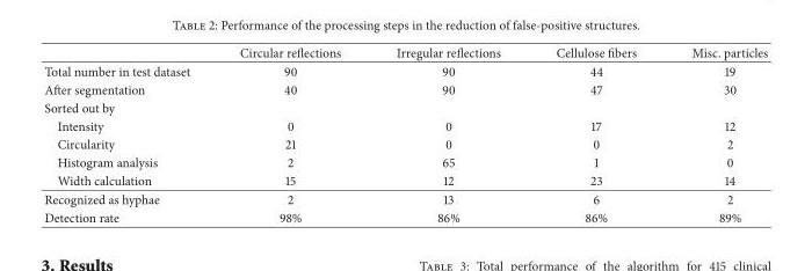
<table><thead><tr><td></td><td>Circular reflections</td><td>Irregular reflections</td><td>Cellulose fibers</td><td>Misc. particles</td></tr></thead><tbody><tr><td>Total number in test dataset</td><td>90</td><td>90</td><td>44</td><td>19</td></tr><tr><td>After segmentation</td><td>40</td><td>90</td><td>47</td><td>30</td></tr><tr><td colspan="5">Sorted out by</td></tr><tr><td>Intensity</td><td>0</td><td>0</td><td>17</td><td>12</td></tr><tr><td>Circularity</td><td>21</td><td>0</td><td>0</td><td>2</td></tr><tr><td>Histogram analysis</td><td>2</td><td>65</td><td>1</td><td>0</td></tr><tr><td>Width calculation</td><td>15</td><td>12</td><td>23</td><td>14</td></tr><tr><td>Recognized as hyphae</td><td>2</td><td>13</td><td>6</td><td>2</td></tr><tr><td>Detection rate</td><td>98%</td><td>86%</td><td>86%</td><td>89%</td></tr></tbody></table>